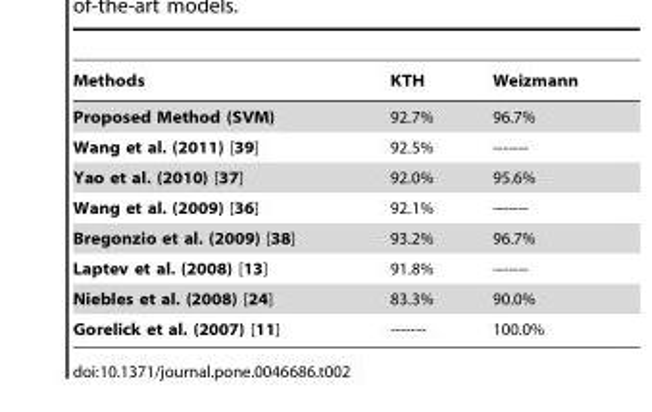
<table><thead><tr><td>Methods</td><td>KTH</td><td>Weizmann</td></tr></thead><tbody><tr><td>Proposed Method (SVM)</td><td>92.7%</td><td>96.7%</td></tr><tr><td>Wang et al. (2011) [39]</td><td>92.5%</td><td>-------</td></tr><tr><td>Yao et al. (2010) [37]</td><td>92.0%</td><td>95.6%</td></tr><tr><td>Wang et al. (2009) [36]</td><td>92.1%</td><td>-------</td></tr><tr><td>Bregonzio et al. (2009) [38]</td><td>93.2%</td><td>96.7%</td></tr><tr><td>Laptev et al. (2008) [13]</td><td>91.8%</td><td>-------</td></tr><tr><td>Niebles et al. (2008) [24]</td><td>83.3%</td><td>90.0%</td></tr><tr><td>Gorelick et al. (2007) [11]</td><td>-------</td><td>100.0%</td></tr></tbody></table>